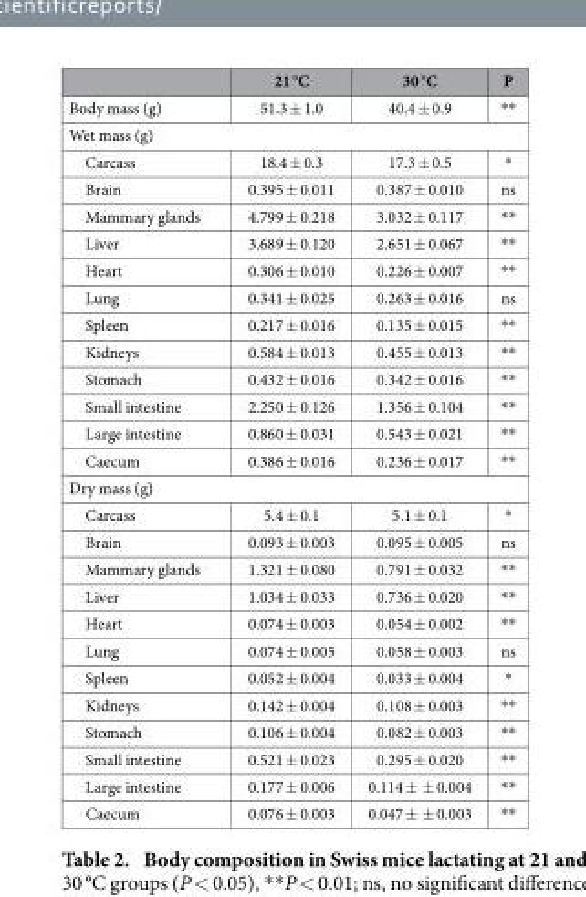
<table><thead><tr><td></td><td>21 °C</td><td>30 °C</td><td>P</td></tr></thead><tbody><tr><td>Body mass (g)</td><td>51.3 ± 1.0</td><td>40.4 ± 0.9</td><td>* *</td></tr><tr><td colspan="4">Wet mass (g)</td></tr><tr><td>Carcass</td><td>18.4 ± 0.3</td><td>17.3 ± 0.5</td><td>*</td></tr><tr><td>Brain</td><td>0.395 ± 0.011</td><td>0.387 ± 0.010</td><td>ns</td></tr><tr><td>Mammary glands</td><td>4.799 ± 0.218</td><td>3.032 ± 0.117</td><td>* *</td></tr><tr><td>Liver</td><td>3.689 ± 0.120</td><td>2.651 ± 0.067</td><td>* *</td></tr><tr><td>Heart</td><td>0.306 ± 0.010</td><td>0.226 ± 0.007</td><td>* *</td></tr><tr><td>Lung</td><td>0.341 ± 0.025</td><td>0.263 ± 0.016</td><td>ns</td></tr><tr><td>Spleen</td><td>0.217 ± 0.016</td><td>0.135 ± 0.015</td><td>* *</td></tr><tr><td>Kidneys</td><td>0.584 ± 0.013</td><td>0.455 ± 0.013</td><td>* *</td></tr><tr><td>Stomach</td><td>0.432 ± 0.016</td><td>0.342 ± 0.016</td><td>* *</td></tr><tr><td>Small intestine</td><td>2.250 ± 0.126</td><td>1.356 ± 0.104</td><td>* *</td></tr><tr><td>Large intestine</td><td>0.860 ± 0.031</td><td>0.543 ± 0.021</td><td>* *</td></tr><tr><td>Caecum</td><td>0.386 ± 0.016</td><td>0.236 ± 0.017</td><td>* *</td></tr><tr><td colspan="4">Dry mass (g)</td></tr><tr><td>Carcass</td><td>5.4 ± 0.1</td><td>5.1 ± 0.1</td><td>*</td></tr><tr><td>Brain</td><td>0.093 ± 0.003</td><td>0.095 ± 0.005</td><td>ns</td></tr><tr><td>Mammary glands</td><td>1.321 ± 0.080</td><td>0.791 ± 0.032</td><td>* *</td></tr><tr><td>Liver</td><td>1.034 ± 0.033</td><td>0.736 ± 0.020</td><td>* *</td></tr><tr><td>Heart</td><td>0.074 ± 0.003</td><td>0.054 ± 0.002</td><td>* *</td></tr><tr><td>Lung</td><td>0.074 ± 0.005</td><td>0.058 ± 0.003</td><td>ns</td></tr><tr><td>Spleen</td><td>0.052 ± 0.004</td><td>0.033 ± 0.004</td><td>*</td></tr><tr><td>Kidneys</td><td>0.142 ± 0.004</td><td>0.108 ± 0.003</td><td>* *</td></tr><tr><td>Stomach</td><td>0.106 ± 0.004</td><td>0.082 ± 0.003</td><td>* *</td></tr><tr><td>Small intestine</td><td>0.521 ± 0.023</td><td>0.295 ± 0.020</td><td>* *</td></tr><tr><td>Large intestine</td><td>0.177 ± 0.006</td><td>0.114 ± ± 0.004</td><td>* *</td></tr><tr><td>Caecum</td><td>0.076 ± 0.003</td><td>0.047 ± ± 0.003</td><td>* *</td></tr></tbody></table>